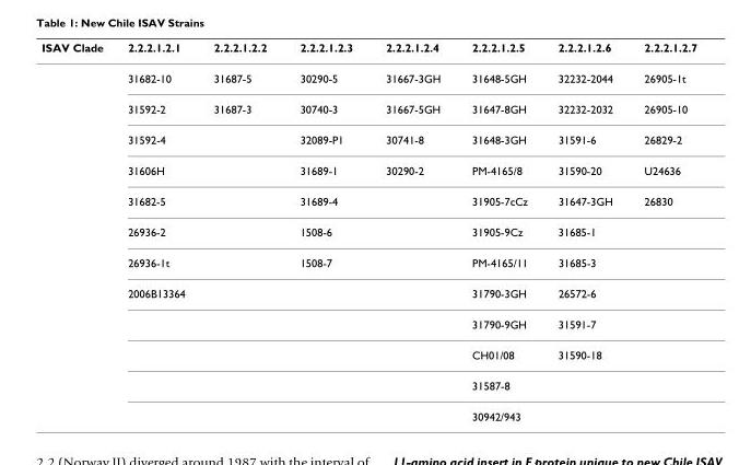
<table><thead><tr><td>ISAV Clade</td><td>2.2.2.1.2.1</td><td>2.2.2.1.2.2</td><td>2.2.2.1.2.3</td><td>2.2.2.1.2.4</td><td>2.2.2.1.2.5</td><td>2.2.2.1.2.6</td><td>2.2.2.1.2.7</td></tr></thead><tbody><tr><td></td><td>31682-10</td><td>31687-5</td><td>30290-5</td><td>31667-3GH</td><td>31648-5GH</td><td>32232-2044</td><td>26905-1t</td></tr><tr><td></td><td>31592-2</td><td>31687-3</td><td>30740-3</td><td>31667-5GH</td><td>31647-8GH</td><td>32232-2032</td><td>26905-10</td></tr><tr><td></td><td>31592-4</td><td></td><td>32089-P1</td><td>30741-8</td><td>31648-3GH</td><td>31591-6</td><td>26829-2</td></tr><tr><td></td><td>31606H</td><td></td><td>31689-1</td><td>30290-2</td><td>PM-4165/8</td><td>31590-20</td><td>U24636</td></tr><tr><td></td><td>31682-5</td><td></td><td>31689-4</td><td></td><td>31905-7cCz</td><td>31647-3GH</td><td>26830</td></tr><tr><td></td><td>26936-2</td><td></td><td>1508-6</td><td></td><td>31905-9Cz</td><td>31685-1</td><td></td></tr><tr><td></td><td>26936-1t</td><td></td><td>1508-7</td><td></td><td>PM-4165/11</td><td>31685-3</td><td></td></tr><tr><td></td><td>2006B13364</td><td></td><td></td><td></td><td>31790-3GH</td><td>26572-6</td><td></td></tr><tr><td></td><td></td><td></td><td></td><td></td><td>31790-9GH</td><td>31591-7</td><td></td></tr><tr><td></td><td></td><td></td><td></td><td></td><td>CH01/08</td><td>31590-18</td><td></td></tr><tr><td></td><td></td><td></td><td></td><td></td><td>31587-8</td><td></td><td></td></tr><tr><td></td><td></td><td></td><td></td><td></td><td>30942/943</td><td></td><td></td></tr></tbody></table>